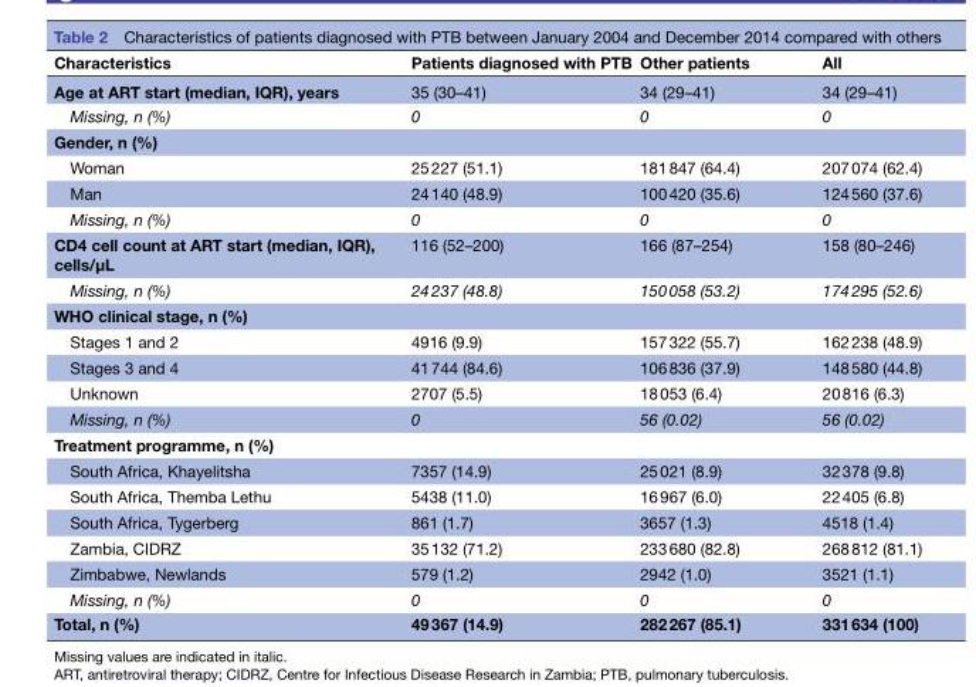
<table><thead><tr><td>Characteristics</td><td>Patients diagnosed with PTB</td><td>Other patients</td><td>All</td></tr></thead><tbody><tr><td>Age at ART start (median, IQR), years</td><td>35 (30–41)</td><td>34 (29–41)</td><td>34 (29–41)</td></tr><tr><td>Missing, n (%)</td><td>0</td><td>0</td><td>0</td></tr><tr><td colspan="4">Gender, n (%)</td></tr><tr><td>Woman</td><td>25 227 (51.1)</td><td>181 847 (64.4)</td><td>207 074 (62.4)</td></tr><tr><td>Man</td><td>24 140 (48.9)</td><td>100 420 (35.6)</td><td>124 560 (37.6)</td></tr><tr><td>Missing, n (%)</td><td>0</td><td>0</td><td>0</td></tr><tr><td>CD4 cell count at ART start (median, IQR), cells/µL</td><td>116 (52–200)</td><td>166 (87–254)</td><td>158 (80–246)</td></tr><tr><td>Missing, n (%)</td><td>24 237 (48.8)</td><td>150 058 (53.2)</td><td>174 295 (52.6)</td></tr><tr><td colspan="4">WHO clinical stage, n (%)</td></tr><tr><td>Stages 1 and 2</td><td>4916 (9.9)</td><td>157 322 (55.7)</td><td>162 238 (48.9)</td></tr><tr><td>Stages 3 and 4</td><td>41 744 (84.6)</td><td>106 836 (37.9)</td><td>148 580 (44.8)</td></tr><tr><td>Unknown</td><td>2707 (5.5)</td><td>18 053 (6.4)</td><td>20 816 (6.3)</td></tr><tr><td>Missing, n (%)</td><td>0</td><td>56 (0.02)</td><td>56 (0.02)</td></tr><tr><td colspan="4">Treatment programme, n (%)</td></tr><tr><td>South Africa, Khayelitsha</td><td>7357 (14.9)</td><td>25 021 (8.9)</td><td>32 378 (9.8)</td></tr><tr><td>South Africa, Themba Lethu</td><td>5438 (11.0)</td><td>16 967 (6.0)</td><td>22 405 (6.8)</td></tr><tr><td>South Africa, Tygerberg</td><td>861 (1.7)</td><td>3657 (1.3)</td><td>4518 (1.4)</td></tr><tr><td>Zambia, CIDRZ</td><td>35 132 (71.2)</td><td>233 680 (82.8)</td><td>268 812 (81.1)</td></tr><tr><td>Zimbabwe, Newlands</td><td>579 (1.2)</td><td>2942 (1.0)</td><td>3521 (1.1)</td></tr><tr><td>Missing, n (%)</td><td>0</td><td>0</td><td>0</td></tr><tr><td>Total, n (%)</td><td>49 367 (14.9)</td><td>282 267 (85.1)</td><td>331 634 (100)</td></tr></tbody></table>